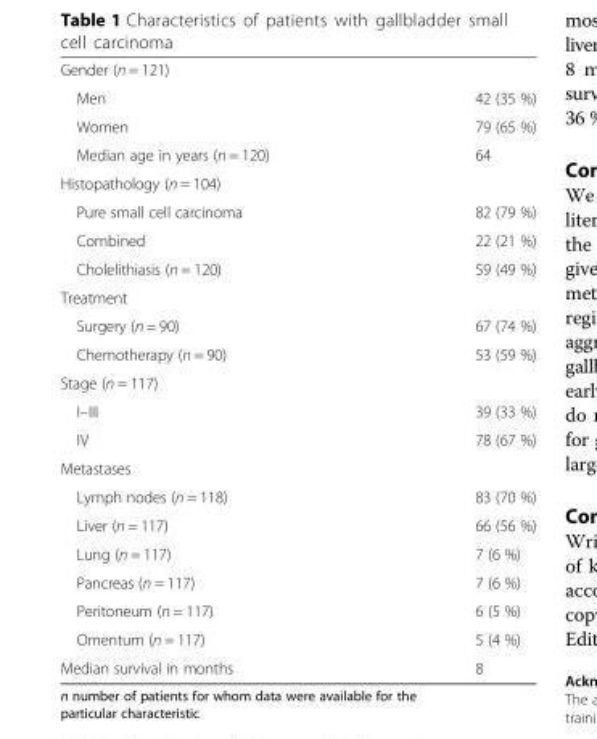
<table><tbody><tr><td colspan="2">Gender (n = 121)</td></tr><tr><td>Men</td><td>42 (35 %)</td></tr><tr><td>Women</td><td>79 (65 %)</td></tr><tr><td>Median age in years (n = 120)</td><td>64</td></tr><tr><td colspan="2">Histopathology (n = 104)</td></tr><tr><td>Pure small cell carcinoma</td><td>82 (79 %)</td></tr><tr><td>Combined</td><td>22 (21 %)</td></tr><tr><td>Cholelithiasis (n = 120)</td><td>59 (49 %)</td></tr><tr><td colspan="2">Treatment</td></tr><tr><td>Surgery (n = 90)</td><td>67 (74 %)</td></tr><tr><td>Chemotherapy (n = 90)</td><td>53 (59 %)</td></tr><tr><td colspan="2">Stage (n = 117)</td></tr><tr><td>I–III</td><td>39 (33 %)</td></tr><tr><td>IV</td><td>78 (67 %)</td></tr><tr><td colspan="2">Metastases</td></tr><tr><td>Lymph nodes (n = 118)</td><td>83 (70 %)</td></tr><tr><td>Liver (n = 117)</td><td>66 (56 %)</td></tr><tr><td>Lung (n = 117)</td><td>7 (6 %)</td></tr><tr><td>Pancreas (n = 117)</td><td>7 (6 %)</td></tr><tr><td>Peritoneum (n = 117)</td><td>6 (5 %)</td></tr><tr><td>Omentum (n = 117)</td><td>5 (4 %)</td></tr><tr><td>Median survival in months</td><td>8</td></tr></tbody></table>